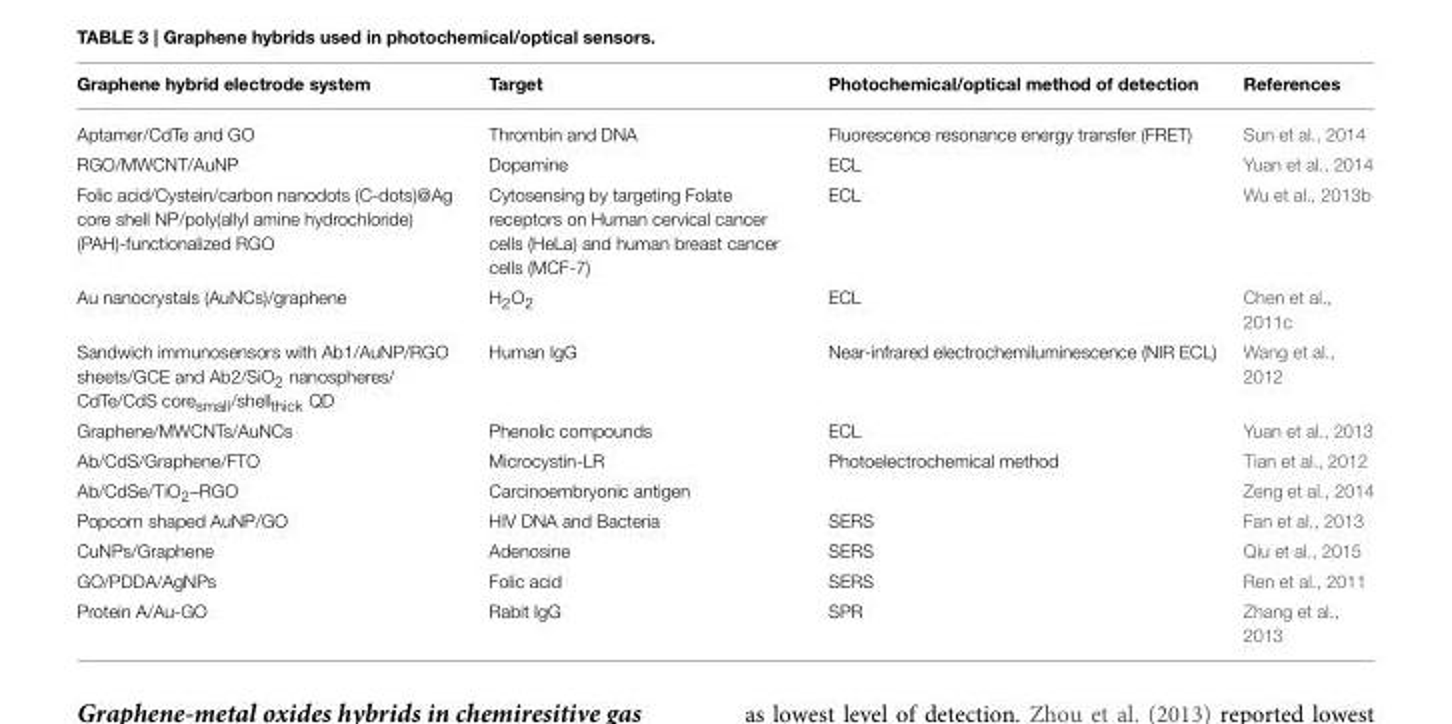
<table><thead><tr><td>Graphene hybrid electrode system</td><td>Target</td><td>Photochemical/optical method of detection</td><td>References</td></tr></thead><tbody><tr><td>Aptamer/CdTe and GO</td><td>Thrombin and DNA</td><td>Fluorescence resonance energy transfer (FRET)</td><td>Sun et al., 2014</td></tr><tr><td>RGO/MWCNT/AuNP</td><td>Dopamine</td><td>ECL</td><td>Yuan et al., 2014</td></tr><tr><td>Folic acid/Cystein/carbon nanodots (C-dots)@Ag core shell NP/poly(allyl amine hydrochloride) (PAH)-functionalized RGO</td><td>Cytosensing by targeting Folate receptors on Human cervical cancer cells (HeLa) and human breast cancer cells (MCF-7)</td><td>ECL</td><td>Wu et al., 2013b</td></tr><tr><td>Au nanocrystals (AuNCs)/graphene</td><td>H<sub>2</sub>O<sub>2</sub></td><td>ECL</td><td>Chen et al., 2011c</td></tr><tr><td>Sandwich immunosensors with Ab1/AuNP/RGO sheets/GCE and Ab2/SiO<sub>2</sub> nanospheres/ CdTe/CdS core<sub>small</sub>/shell<sub>thick</sub> QD</td><td>Human IgG</td><td>Near-infrared electrochemiluminescence (NIR ECL)</td><td>Wang et al., 2012</td></tr><tr><td>Graphene/MWCNTs/AuNCs</td><td>Phenolic compounds</td><td>ECL</td><td>Yuan et al., 2013</td></tr><tr><td>Ab/CdS/Graphene/FTO</td><td>Microcystin-LR</td><td>Photoelectrochemical method</td><td>Tian et al., 2012</td></tr><tr><td>Ab/CdSe/TiO<sub>2</sub>–RGO</td><td>Carcinoembryonic antigen</td><td></td><td>Zeng et al., 2014</td></tr><tr><td>Popcorn shaped AuNP/GO</td><td>HIV DNA and Bacteria</td><td>SERS</td><td>Fan et al., 2013</td></tr><tr><td>CuNPs/Graphene</td><td>Adenosine</td><td>SERS</td><td>Qiu et al., 2015</td></tr><tr><td>GO/PDDA/AgNPs</td><td>Folic acid</td><td>SERS</td><td>Ren et al., 2011</td></tr><tr><td>Protein A/Au-GO</td><td>Rabit IgG</td><td>SPR</td><td>Zhang et al., 2013</td></tr></tbody></table>